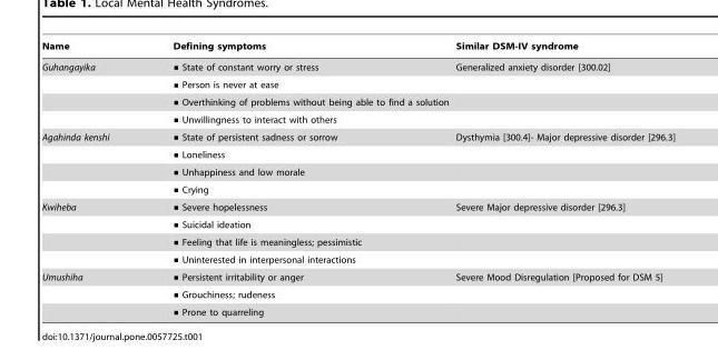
<table><thead><tr><td>Name</td><td>Defining symptoms</td><td>Similar DSM-IV syndrome</td></tr></thead><tbody><tr><td rowspan="4">Guhangayika</td><td>▪ State of constant worry or stress</td><td>Generalized anxiety disorder [300.02]</td></tr><tr><td>▪ Person is never at ease</td><td></td></tr><tr><td>▪ Overthinking of problems without being able to find a solution</td><td></td></tr><tr><td>▪ Unwillingness to interact with others</td><td></td></tr><tr><td rowspan="4">Agahinda kenshi</td><td>▪ State of persistent sadness or sorrow</td><td>Dysthymia [300.4]- Major depressive disorder [296.3]</td></tr><tr><td>▪ Loneliness</td><td></td></tr><tr><td>▪ Unhappiness and low morale</td><td></td></tr><tr><td>▪ Crying</td><td></td></tr><tr><td rowspan="4">Kwiheba</td><td>▪ Severe hopelessness</td><td>Severe Major depressive disorder [296.3]</td></tr><tr><td>▪ Suicidal ideation</td><td></td></tr><tr><td>▪ Feeling that life is meaningless; pessimistic</td><td></td></tr><tr><td>▪ Uninterested in interpersonal interactions</td><td></td></tr><tr><td rowspan="3">Umushiha</td><td>▪ Persistent irritability or anger</td><td>Severe Mood Disregulation [Proposed for DSM 5]</td></tr><tr><td>▪ Grouchiness; rudeness</td><td></td></tr><tr><td>▪ Prone to quarreling</td><td></td></tr></tbody></table>